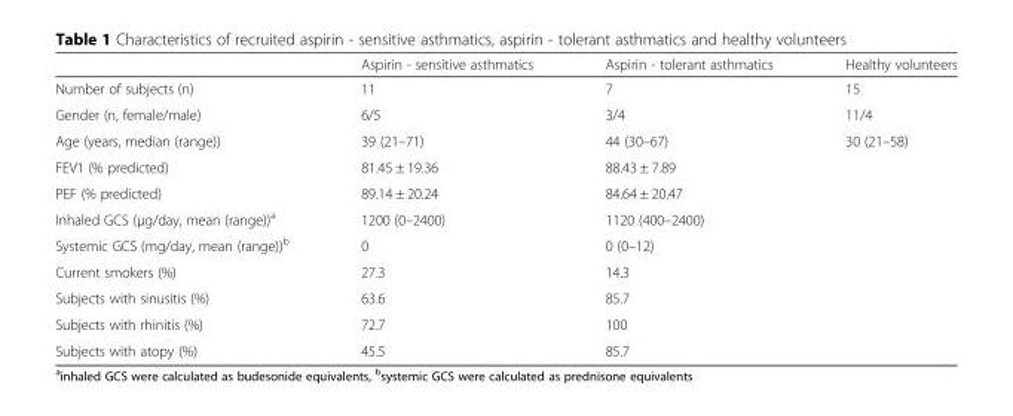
<table><thead><tr><td></td><td>Aspirin - sensitive asthmatics</td><td>Aspirin - tolerant asthmatics</td><td>Healthy volunteers</td></tr></thead><tbody><tr><td>Number of subjects (n)</td><td>11</td><td>7</td><td>15</td></tr><tr><td>Gender (n, female/male)</td><td>6/5</td><td>3/4</td><td>11/4</td></tr><tr><td>Age (years, median (range))</td><td>39 (21–71)</td><td>44 (30–67)</td><td>30 (21–58)</td></tr><tr><td>FEV1 (% predicted)</td><td>81.45 ± 19.36</td><td>88.43 ± 7.89</td><td rowspan="8"></td></tr><tr><td>PEF (% predicted)</td><td>89.14 ± 20.24</td><td>84.64 ± 20.47</td></tr><tr><td>Inhaled GCS (μg/day, mean (range))<sup>a</sup></td><td>1200 (0–2400)</td><td>1120 (400–2400)</td></tr><tr><td>Systemic GCS (mg/day, mean (range))<sup>b</sup></td><td>0</td><td>0 (0–12)</td></tr><tr><td>Current smokers (%)</td><td>27.3</td><td>14.3</td></tr><tr><td>Subjects with sinusitis (%)</td><td>63.6</td><td>85.7</td></tr><tr><td>Subjects with rhinitis (%)</td><td>72.7</td><td>100</td></tr><tr><td>Subjects with atopy (%)</td><td>45.5</td><td>85.7</td></tr></tbody></table>